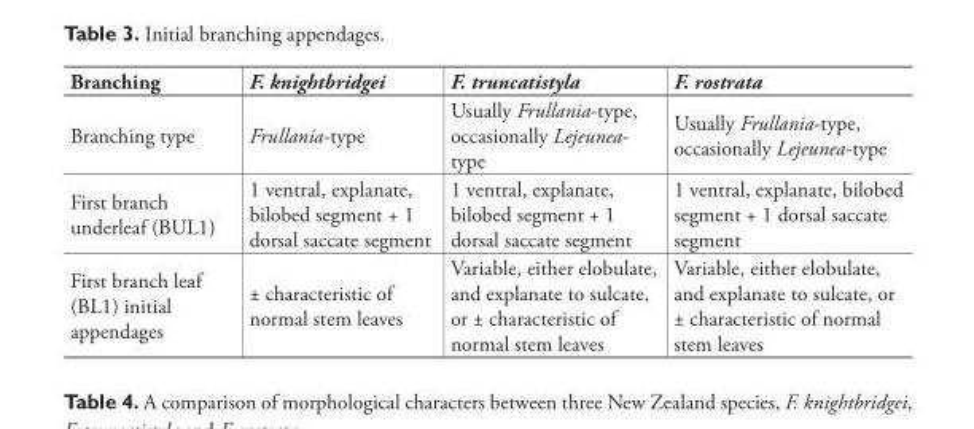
<table><thead><tr><td>Branching</td><td>F. knightbridgei</td><td>F. truncatistyla</td><td>F. rostrata</td></tr></thead><tbody><tr><td>Branching type</td><td>Frullania-type</td><td>Usually Frullania-type, occasionally Lejeunea- type</td><td>Usually Frullania-type, occasionally Lejeunea-type</td></tr><tr><td>First branch underleaf (BUL1)</td><td>1 ventral, explanate, bilobed segment + 1 dorsal saccate segment</td><td>1 ventral, explanate, bilobed segment + 1 dorsal saccate segment</td><td>1 ventral, explanate, bilobed segment + 1 dorsal saccate segment</td></tr><tr><td>First branch leaf (BL1) initial appendages</td><td>± characteristic of normal stem leaves</td><td>Variable, either elobulate, and explanate to sulcate, or ± characteristic of normal stem leaves</td><td>Variable, either elobulate, and explanate to sulcate, or ± characteristic of normal stem leaves</td></tr></tbody></table>